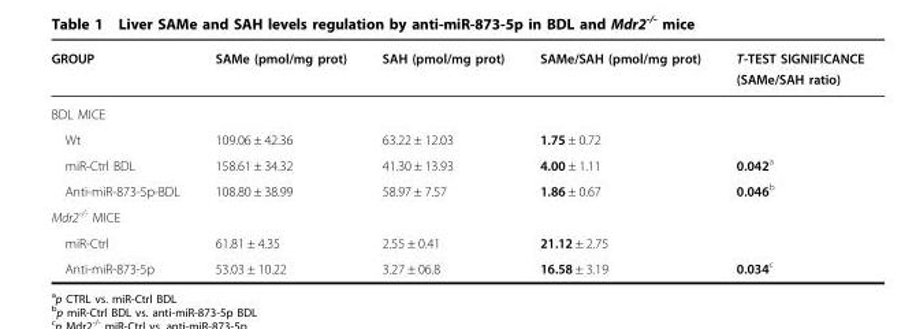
<table><thead><tr><td>GROUP</td><td>SAMe (pmol/mg prot)</td><td>SAH (pmol/mg prot)</td><td>SAMe/SAH (pmol/mg prot)</td><td>T-TEST SIGNIFICANCE (SAMe/SAH ratio)</td></tr></thead><tbody><tr><td colspan="5">BDL MICE</td></tr><tr><td>Wt</td><td>109.06 ± 42.36</td><td>63.22 ± 12.03</td><td>1.75 ± 0.72</td><td></td></tr><tr><td>miR-Ctrl BDL</td><td>158.61 ± 34.32</td><td>41.30 ± 13.93</td><td>4.00 ± 1.11</td><td>0.042<sup>a</sup></td></tr><tr><td>Anti-miR-873-5p-BDL</td><td>108.80 ± 38.99</td><td>58.97 ± 7.57</td><td>1.86 ± 0.67</td><td>0.046<sup>b</sup></td></tr><tr><td colspan="5">Mdr2<sup>-/-</sup> MICE</td></tr><tr><td>miR-Ctrl</td><td>61.81 ± 4.35</td><td>2.55 ± 0.41</td><td>21.12 ± 2.75</td><td></td></tr><tr><td>Anti-miR-873-5p</td><td>53.03 ± 10.22</td><td>3.27 ± 06.8</td><td>16.58 ± 3.19</td><td>0.034<sup>c</sup></td></tr></tbody></table>